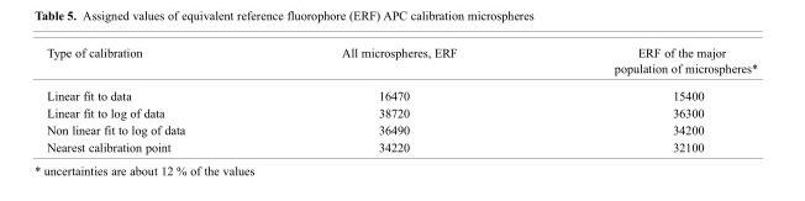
<table><thead><tr><td>Type of calibration</td><td>All microspheres, ERF</td><td>ERF of the major population of microspheres*</td></tr></thead><tbody><tr><td>Linear fit to data</td><td>16470</td><td>15400</td></tr><tr><td>Linear fit to log of data</td><td>38720</td><td>36300</td></tr><tr><td>Non linear fit to log of data</td><td>36490</td><td>34200</td></tr><tr><td>Nearest calibration point</td><td>34220</td><td>32100</td></tr></tbody></table>